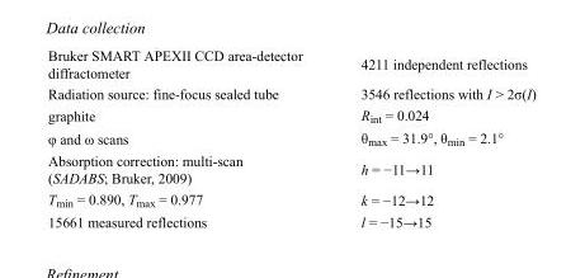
<table><tbody><tr><td>Bruker SMART APEXII CCD area-detector diffractometer</td><td>4211 independent reflections</td></tr><tr><td>Radiation source: fine-focus sealed tube</td><td>3546 reflections with I &gt; 2σ(I)</td></tr><tr><td>graphite</td><td>R<sub>int</sub> = 0.024</td></tr><tr><td>φ and ω scans</td><td>θ<sub>max</sub> = 31.9°, θ<sub>min</sub> = 2.1°</td></tr><tr><td>Absorption correction: multi-scan (SADABS; Bruker, 2009)</td><td>h = −11→11</td></tr><tr><td>T<sub>min</sub> = 0.890, T<sub>max</sub> = 0.977</td><td>k = −12→12</td></tr><tr><td>15661 measured reflections</td><td>l = −15→15</td></tr></tbody></table>